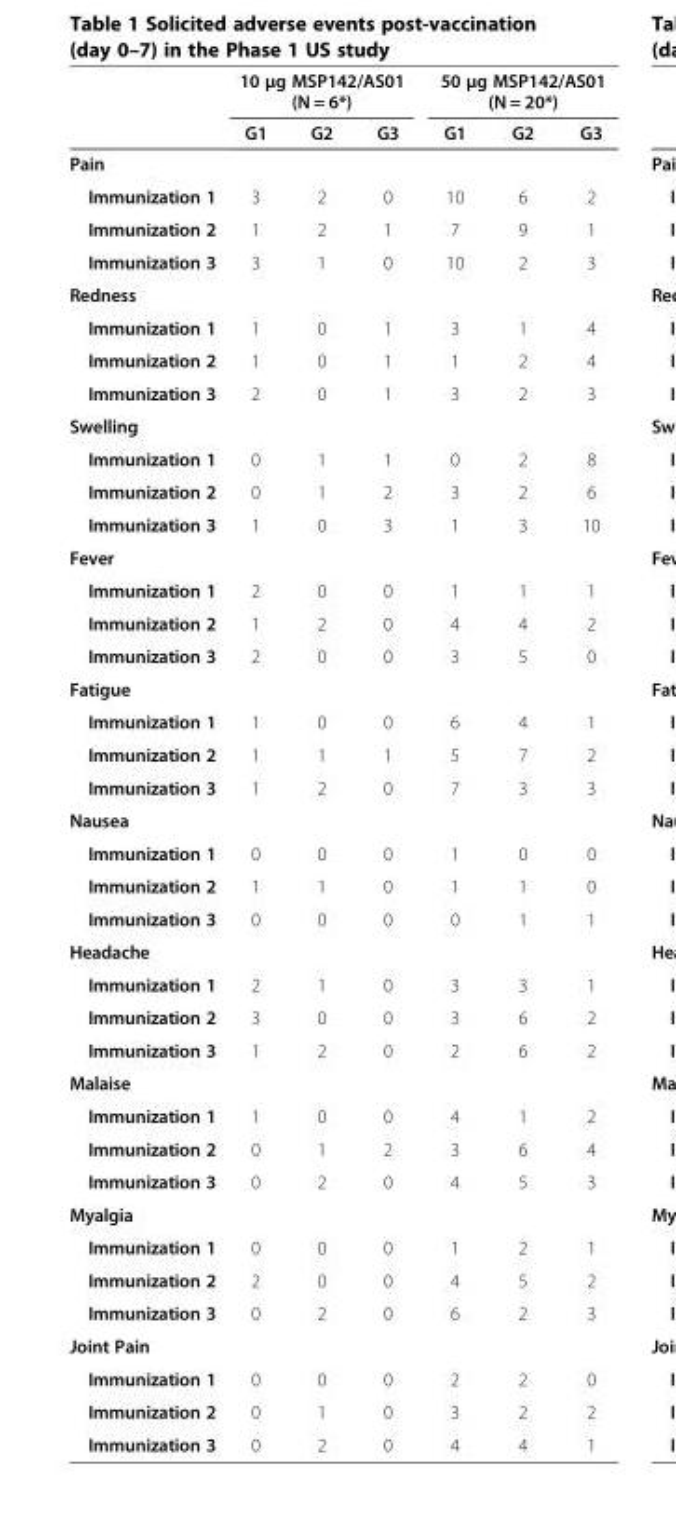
<table><thead><tr><td rowspan="2"></td><td colspan="3">10 μg MSP142/AS01 (N = 6*)</td><td colspan="3">50 μg MSP142/AS01 (N = 20*)</td></tr><tr><td>G1</td><td>G2</td><td>G3</td><td>G1</td><td>G2</td><td>G3</td></tr></thead><tbody><tr><td colspan="7">Pain</td></tr><tr><td>Immunization 1</td><td>3</td><td>2</td><td>0</td><td>10</td><td>6</td><td>2</td></tr><tr><td>Immunization 2</td><td>1</td><td>2</td><td>1</td><td>7</td><td>9</td><td>1</td></tr><tr><td>Immunization 3</td><td>3</td><td>1</td><td>0</td><td>10</td><td>2</td><td>3</td></tr><tr><td colspan="7">Redness</td></tr><tr><td>Immunization 1</td><td>1</td><td>0</td><td>1</td><td>3</td><td>1</td><td>4</td></tr><tr><td>Immunization 2</td><td>1</td><td>0</td><td>1</td><td>1</td><td>2</td><td>4</td></tr><tr><td>Immunization 3</td><td>2</td><td>0</td><td>1</td><td>3</td><td>2</td><td>3</td></tr><tr><td colspan="7">Swelling</td></tr><tr><td>Immunization 1</td><td>0</td><td>1</td><td>1</td><td>0</td><td>2</td><td>8</td></tr><tr><td>Immunization 2</td><td>0</td><td>1</td><td>2</td><td>3</td><td>2</td><td>6</td></tr><tr><td>Immunization 3</td><td>1</td><td>0</td><td>3</td><td>1</td><td>3</td><td>10</td></tr><tr><td colspan="7">Fever</td></tr><tr><td>Immunization 1</td><td>2</td><td>0</td><td>0</td><td>1</td><td>1</td><td>1</td></tr><tr><td>Immunization 2</td><td>1</td><td>2</td><td>0</td><td>4</td><td>4</td><td>2</td></tr><tr><td>Immunization 3</td><td>2</td><td>0</td><td>0</td><td>3</td><td>5</td><td>0</td></tr><tr><td colspan="7">Fatigue</td></tr><tr><td>Immunization 1</td><td>1</td><td>0</td><td>0</td><td>6</td><td>4</td><td>1</td></tr><tr><td>Immunization 2</td><td>1</td><td>1</td><td>1</td><td>5</td><td>7</td><td>2</td></tr><tr><td>Immunization 3</td><td>1</td><td>2</td><td>0</td><td>7</td><td>3</td><td>3</td></tr><tr><td colspan="7">Nausea</td></tr><tr><td>Immunization 1</td><td>0</td><td>0</td><td>0</td><td>1</td><td>0</td><td>0</td></tr><tr><td>Immunization 2</td><td>1</td><td>1</td><td>0</td><td>1</td><td>1</td><td>0</td></tr><tr><td>Immunization 3</td><td>0</td><td>0</td><td>0</td><td>0</td><td>1</td><td>1</td></tr><tr><td colspan="7">Headache</td></tr><tr><td>Immunization 1</td><td>2</td><td>1</td><td>0</td><td>3</td><td>3</td><td>1</td></tr><tr><td>Immunization 2</td><td>3</td><td>0</td><td>0</td><td>3</td><td>6</td><td>2</td></tr><tr><td>Immunization 3</td><td>1</td><td>2</td><td>0</td><td>2</td><td>6</td><td>2</td></tr><tr><td colspan="7">Malaise</td></tr><tr><td>Immunization 1</td><td>1</td><td>0</td><td>0</td><td>4</td><td>1</td><td>2</td></tr><tr><td>Immunization 2</td><td>0</td><td>1</td><td>2</td><td>3</td><td>6</td><td>4</td></tr><tr><td>Immunization 3</td><td>0</td><td>2</td><td>0</td><td>4</td><td>5</td><td>3</td></tr><tr><td colspan="7">Myalgia</td></tr><tr><td>Immunization 1</td><td>0</td><td>0</td><td>0</td><td>1</td><td>2</td><td>1</td></tr><tr><td>Immunization 2</td><td>2</td><td>0</td><td>0</td><td>4</td><td>5</td><td>2</td></tr><tr><td>Immunization 3</td><td>0</td><td>2</td><td>0</td><td>6</td><td>2</td><td>3</td></tr><tr><td colspan="7">Joint Pain</td></tr><tr><td>Immunization 1</td><td>0</td><td>0</td><td>0</td><td>2</td><td>2</td><td>0</td></tr><tr><td>Immunization 2</td><td>0</td><td>1</td><td>0</td><td>3</td><td>2</td><td>2</td></tr><tr><td>Immunization 3</td><td>0</td><td>2</td><td>0</td><td>4</td><td>4</td><td>1</td></tr></tbody></table>